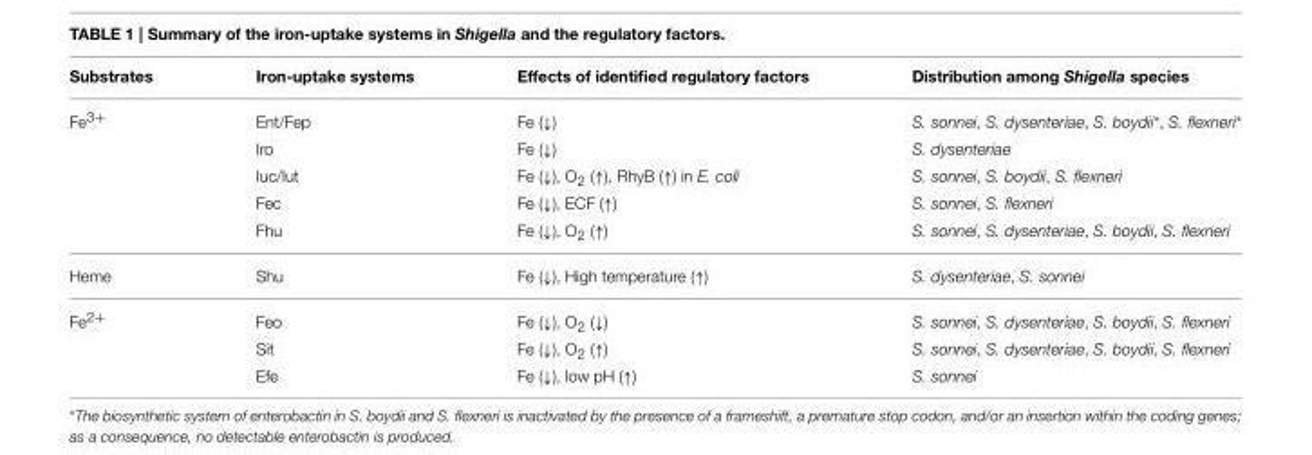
<table><thead><tr><td>Substrates</td><td>Iron-uptake systems</td><td>Effects of identified regulatory factors</td><td>Distribution among Shigella species</td></tr></thead><tbody><tr><td rowspan="5">Fe<sup>3+</sup></td><td>Ent/Fep</td><td>Fe (↓)</td><td>S. sonnei, S. dysenteriae, S. boydii*, S. flexneri*</td></tr><tr><td>Iro</td><td>Fe (↓)</td><td>S. dysenteriae</td></tr><tr><td>Iuc/Iut</td><td>Fe (↓), O<sub>2</sub> (↑), RhyB (↑) in E. coli</td><td>S. sonnei, S. boydii, S. flexneri</td></tr><tr><td>Fec</td><td>Fe (↓), ECF (↑)</td><td>S. sonnei, S. flexneri</td></tr><tr><td>Fhu</td><td>Fe (↓), O<sub>2</sub> (↑)</td><td>S. sonnei, S. dysenteriae, S. boydii, S. flexneri</td></tr><tr><td>Heme</td><td>Shu</td><td>Fe (↓), High temperature (↑)</td><td>S. dysenteriae, S. sonnei</td></tr><tr><td rowspan="3">Fe<sup>2+</sup></td><td>Feo</td><td>Fe (↓), O<sub>2</sub> (↓)</td><td>S. sonnei, S. dysenteriae, S. boydii, S. flexneri</td></tr><tr><td>Sit</td><td>Fe (↓), O<sub>2</sub> (↑)</td><td>S. sonnei, S. dysenteriae, S. boydii, S. flexneri</td></tr><tr><td>Efe</td><td>Fe (↓), low pH (↑)</td><td>S. sonnei</td></tr></tbody></table>